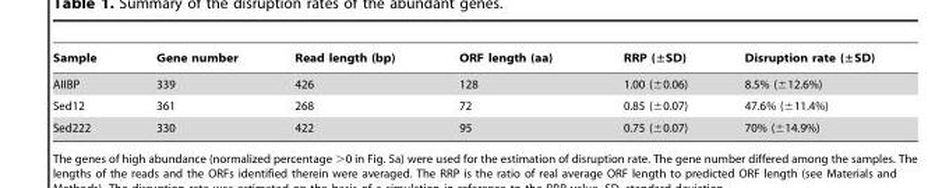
<table><thead><tr><td>Sample</td><td>Gene number</td><td>Read length (bp)</td><td>ORF length (aa)</td><td>RRP (±SD)</td><td>Disruption rate (±SD)</td></tr></thead><tbody><tr><td>AIIBP</td><td>339</td><td>426</td><td>128</td><td>1.00 (±0.06)</td><td>8.5% (±12.6%)</td></tr><tr><td>Sed12</td><td>361</td><td>268</td><td>72</td><td>0.85 (±0.07)</td><td>47.6% (±11.4%)</td></tr><tr><td>Sed222</td><td>330</td><td>422</td><td>95</td><td>0.75 (±0.07)</td><td>70% (±14.9%)</td></tr></tbody></table>